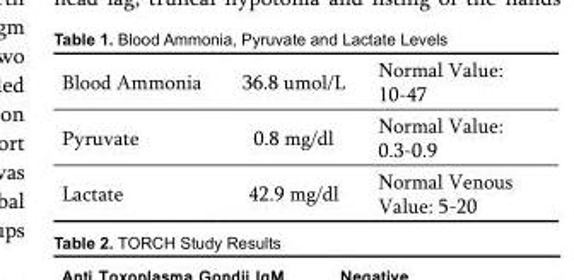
<table><tbody><tr><td>Blood Ammonia</td><td>36.8 umol/L</td><td>Normal Value: 10-47</td></tr><tr><td>Pyruvate</td><td>0.8 mg/dl</td><td>Normal Value: 0.3-0.9</td></tr><tr><td>Lactate</td><td>42.9 mg/dl</td><td>Normal Venous Value: 5-20</td></tr></tbody></table>